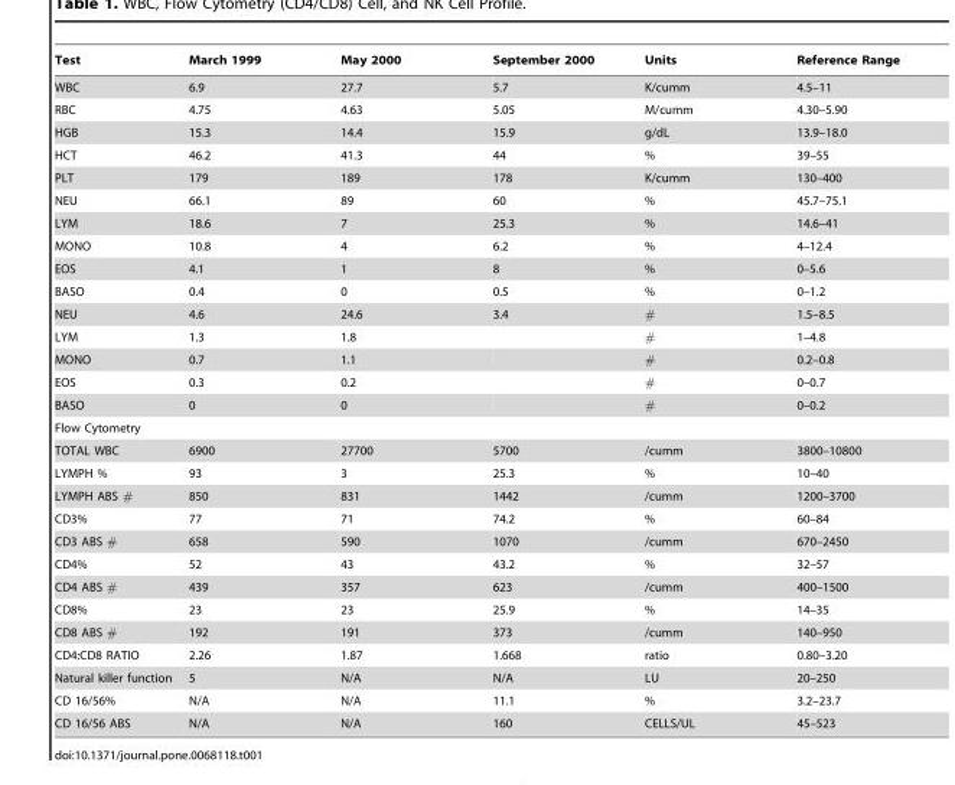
<table><thead><tr><td>Test</td><td>March 1999</td><td>May 2000</td><td>September 2000</td><td>Units</td><td>Reference Range</td></tr></thead><tbody><tr><td>WBC</td><td>6.9</td><td>27.7</td><td>5.7</td><td>K/cumm</td><td>4.5–11</td></tr><tr><td>RBC</td><td>4.75</td><td>4.63</td><td>5.05</td><td>M/cumm</td><td>4.30–5.90</td></tr><tr><td>HGB</td><td>15.3</td><td>14.4</td><td>15.9</td><td>g/dL</td><td>13.9–18.0</td></tr><tr><td>HCT</td><td>46.2</td><td>41.3</td><td>44</td><td>%</td><td>39–55</td></tr><tr><td>PLT</td><td>179</td><td>189</td><td>178</td><td>K/cumm</td><td>130–400</td></tr><tr><td>NEU</td><td>66.1</td><td>89</td><td>60</td><td>%</td><td>45.7–75.1</td></tr><tr><td>LYM</td><td>18.6</td><td>7</td><td>25.3</td><td>%</td><td>14.6–41</td></tr><tr><td>MONO</td><td>10.8</td><td>4</td><td>6.2</td><td>%</td><td>4–12.4</td></tr><tr><td>EOS</td><td>4.1</td><td>1</td><td>8</td><td>%</td><td>0–5.6</td></tr><tr><td>BASO</td><td>0.4</td><td>0</td><td>0.5</td><td>%</td><td>0–1.2</td></tr><tr><td>NEU</td><td>4.6</td><td>24.6</td><td>3.4</td><td>#</td><td>1.5–8.5</td></tr><tr><td>LYM</td><td>1.3</td><td>1.8</td><td></td><td>#</td><td>1–4.8</td></tr><tr><td>MONO</td><td>0.7</td><td>1.1</td><td></td><td>#</td><td>0.2–0.8</td></tr><tr><td>EOS</td><td>0.3</td><td>0.2</td><td></td><td>#</td><td>0–0.7</td></tr><tr><td>BASO</td><td>0</td><td>0</td><td></td><td>#</td><td>0–0.2</td></tr><tr><td colspan="6">Flow Cytometry</td></tr><tr><td>TOTAL WBC</td><td>6900</td><td>27700</td><td>5700</td><td>/cumm</td><td>3800–10800</td></tr><tr><td>LYMPH %</td><td>93</td><td>3</td><td>25.3</td><td>%</td><td>10–40</td></tr><tr><td>LYMPH ABS #</td><td>850</td><td>831</td><td>1442</td><td>/cumm</td><td>1200–3700</td></tr><tr><td>CD3%</td><td>77</td><td>71</td><td>74.2</td><td>%</td><td>60–84</td></tr><tr><td>CD3 ABS #</td><td>658</td><td>590</td><td>1070</td><td>/cumm</td><td>670–2450</td></tr><tr><td>CD4%</td><td>52</td><td>43</td><td>43.2</td><td>%</td><td>32–57</td></tr><tr><td>CD4 ABS #</td><td>439</td><td>357</td><td>623</td><td>/cumm</td><td>400–1500</td></tr><tr><td>CD8%</td><td>23</td><td>23</td><td>25.9</td><td>%</td><td>14–35</td></tr><tr><td>CD8 ABS #</td><td>192</td><td>191</td><td>373</td><td>/cumm</td><td>140–950</td></tr><tr><td>CD4:CD8 RATIO</td><td>2.26</td><td>1.87</td><td>1.668</td><td>ratio</td><td>0.80–3.20</td></tr><tr><td>Natural killer function</td><td>5</td><td>N/A</td><td>N/A</td><td>LU</td><td>20–250</td></tr><tr><td>CD 16/56%</td><td>N/A</td><td>N/A</td><td>11.1</td><td>%</td><td>3.2–23.7</td></tr><tr><td>CD 16/56 ABS</td><td>N/A</td><td>N/A</td><td>160</td><td>CELLS/UL</td><td>45–523</td></tr></tbody></table>